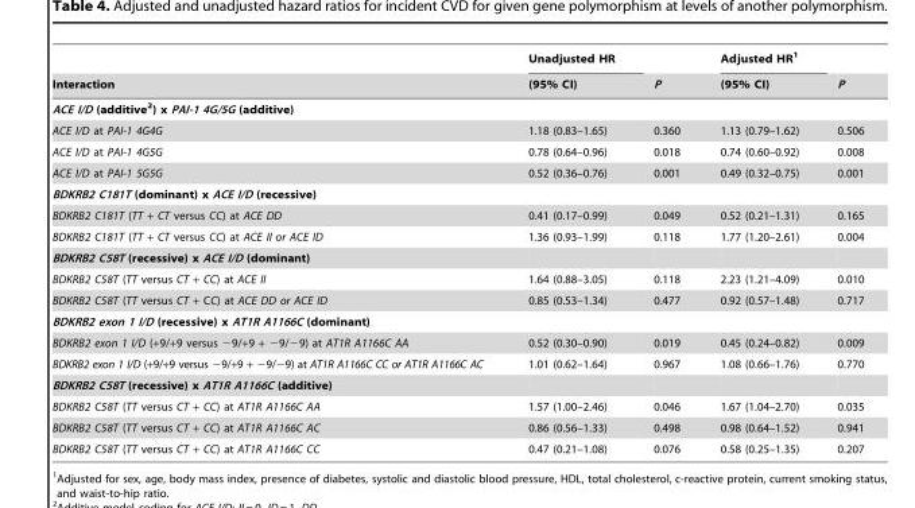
<table><thead><tr><td rowspan="2">Interaction</td><td rowspan="2">Unadjusted HR (95% CI)</td><td rowspan="2">P</td><td rowspan="2">Adjusted HR<sup>1</sup> (95% CI)</td><td rowspan="2">P</td></tr><tr></tr></thead><tbody><tr><td colspan="5">ACE I/D (additive2) x PAI-1 4G/5G (additive)</td></tr><tr><td>ACE I/D at PAI-1 4G4G</td><td>1.18 (0.83–1.65)</td><td>0.360</td><td>1.13 (0.79–1.62)</td><td>0.506</td></tr><tr><td>ACE I/D at PAI-1 4G5G</td><td>0.78 (0.64–0.96)</td><td>0.018</td><td>0.74 (0.60–0.92)</td><td>0.008</td></tr><tr><td>ACE I/D at PAI-1 5G5G</td><td>0.52 (0.36–0.76)</td><td>0.001</td><td>0.49 (0.32–0.75)</td><td>0.001</td></tr><tr><td colspan="5">BDKRB2 C181T (dominant) x ACE I/D (recessive)</td></tr><tr><td>BDKRB2 C181T (TT + CT versus CC) at ACE DD</td><td>0.41 (0.17–0.99)</td><td>0.049</td><td>0.52 (0.21–1.31)</td><td>0.165</td></tr><tr><td>BDKRB2 C181T (TT + CT versus CC) at ACE II or ACE ID</td><td>1.36 (0.93–1.99)</td><td>0.118</td><td>1.77 (1.20–2.61)</td><td>0.004</td></tr><tr><td colspan="5">BDKRB2 C58T (recessive) x ACE I/D (dominant)</td></tr><tr><td>BDKRB2 C58T (TT versus CT + CC) at ACE II</td><td>1.64 (0.88–3.05)</td><td>0.118</td><td>2.23 (1.21–4.09)</td><td>0.010</td></tr><tr><td>BDKRB2 C58T (TT versus CT + CC) at ACE DD or ACE ID</td><td>0.85 (0.53–1.34)</td><td>0.477</td><td>0.92 (0.57–1.48)</td><td>0.717</td></tr><tr><td colspan="5">BDKRB2 exon 1 I/D (recessive) x AT1R A1166C (dominant)</td></tr><tr><td>BDKRB2 exon 1 I/D (+9/+9 versus −9/+9 + −9/−9) at AT1R A1166C AA</td><td>0.52 (0.30–0.90)</td><td>0.019</td><td>0.45 (0.24–0.82)</td><td>0.009</td></tr><tr><td>BDKRB2 exon 1 I/D (+9/+9 versus −9/+9 + −9/−9) at AT1R A1166C CC or AT1R A1166C AC</td><td>1.01 (0.62–1.64)</td><td>0.967</td><td>1.08 (0.66–1.76)</td><td>0.770</td></tr><tr><td colspan="5">BDKRB2 C58T (recessive) x AT1R A1166C (additive)</td></tr><tr><td>BDKRB2 C58T (TT versus CT + CC) at AT1R A1166C AA</td><td>1.57 (1.00–2.46)</td><td>0.046</td><td>1.67 (1.04–2.70)</td><td>0.035</td></tr><tr><td>BDKRB2 C58T (TT versus CT + CC) at AT1R A1166C AC</td><td>0.86 (0.56–1.33)</td><td>0.498</td><td>0.98 (0.64–1.52)</td><td>0.941</td></tr><tr><td>BDKRB2 C58T (TT versus CT + CC) at AT1R A1166C CC</td><td>0.47 (0.21–1.08)</td><td>0.076</td><td>0.58 (0.25–1.35)</td><td>0.207</td></tr></tbody></table>